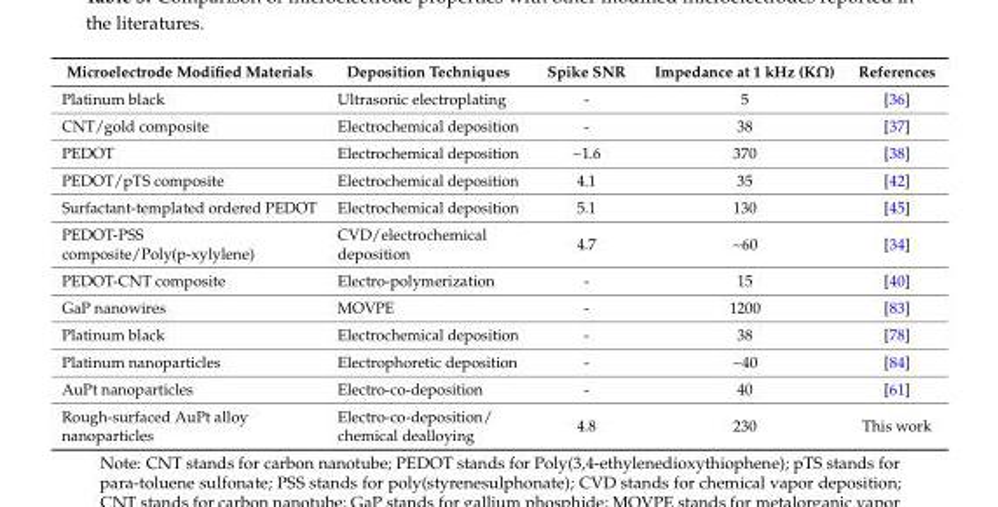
<table><thead><tr><td>Microelectrode Modified Materials</td><td>Deposition Techniques</td><td>Spike SNR</td><td>Impedance at 1 kHz (KΩ)</td><td>References</td></tr></thead><tbody><tr><td>Platinum black</td><td>Ultrasonic electroplating</td><td>-</td><td>5</td><td>[36]</td></tr><tr><td>CNT/gold composite</td><td>Electrochemical deposition</td><td>-</td><td>38</td><td>[37]</td></tr><tr><td>PEDOT</td><td>Electrochemical deposition</td><td>~1.6</td><td>370</td><td>[38]</td></tr><tr><td>PEDOT/pTS composite</td><td>Electrochemical deposition</td><td>4.1</td><td>35</td><td>[42]</td></tr><tr><td>Surfactant-templated ordered PEDOT</td><td>Electrochemical deposition</td><td>5.1</td><td>130</td><td>[45]</td></tr><tr><td>PEDOT-PSS composite/Poly(p-xylylene)</td><td>CVD/electrochemical deposition</td><td>4.7</td><td>~60</td><td>[34]</td></tr><tr><td>PEDOT-CNT composite</td><td>Electro-polymerization</td><td>-</td><td>15</td><td>[40]</td></tr><tr><td>GaP nanowires</td><td>MOVPE</td><td>-</td><td>1200</td><td>[83]</td></tr><tr><td>Platinum black</td><td>Electrochemical deposition</td><td>-</td><td>38</td><td>[78]</td></tr><tr><td>Platinum nanoparticles</td><td>Electrophoretic deposition</td><td>-</td><td>~40</td><td>[84]</td></tr><tr><td>AuPt nanoparticles</td><td>Electro-co-deposition</td><td>-</td><td>40</td><td>[61]</td></tr><tr><td>Rough-surfaced AuPt alloy nanoparticles</td><td>Electro-co-deposition/ chemical dealloying</td><td>4.8</td><td>230</td><td>This work</td></tr></tbody></table>